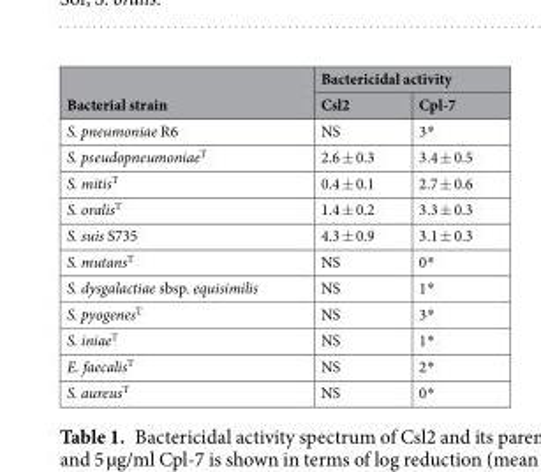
<table><thead><tr><td rowspan="2">Bacterial strain</td><td colspan="2">Bactericidal activity</td></tr><tr><td>Csl2</td><td>Cpl-7</td></tr></thead><tbody><tr><td>S. pneumoniae R6</td><td>NS</td><td>3*</td></tr><tr><td>S. pseudopneumoniae<sup>T</sup></td><td>2.6 ± 0.3</td><td>3.4 ± 0.5</td></tr><tr><td>S. mitis<sup>T</sup></td><td>0.4 ± 0.1</td><td>2.7 ± 0.6</td></tr><tr><td>S. oralis<sup>T</sup></td><td>1.4 ± 0.2</td><td>3.3 ± 0.3</td></tr><tr><td>S. suis S735</td><td>4.3 ± 0.9</td><td>3.1 ± 0.3</td></tr><tr><td>S. mutans<sup>T</sup></td><td>NS</td><td>0*</td></tr><tr><td>S. dysgalactiae sbsp. equisimilis</td><td>NS</td><td>1*</td></tr><tr><td>S. pyogenes<sup>T</sup></td><td>NS</td><td>3*</td></tr><tr><td>S. iniae<sup>T</sup></td><td>NS</td><td>1*</td></tr><tr><td>E. faecalis<sup>T</sup></td><td>NS</td><td>2*</td></tr><tr><td>S. aureus<sup>T</sup></td><td>NS</td><td>0*</td></tr></tbody></table>